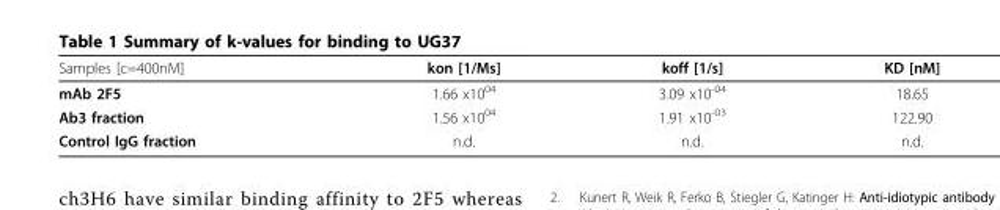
<table><thead><tr><td>Samples [c=400nM]</td><td>kon [1/Ms]</td><td>koff [1/s]</td><td>KD [nM]</td></tr></thead><tbody><tr><td>mAb 2F5</td><td>1.66 x10<sup>04</sup></td><td>3.09 x10<sup>-04</sup></td><td>18.65</td></tr><tr><td>Ab3 fraction</td><td>1.56 x10<sup>04</sup></td><td>1.91 x10<sup>-03</sup></td><td>122.90</td></tr><tr><td>Control IgG fraction</td><td>n.d.</td><td>n.d.</td><td>n.d.</td></tr></tbody></table>